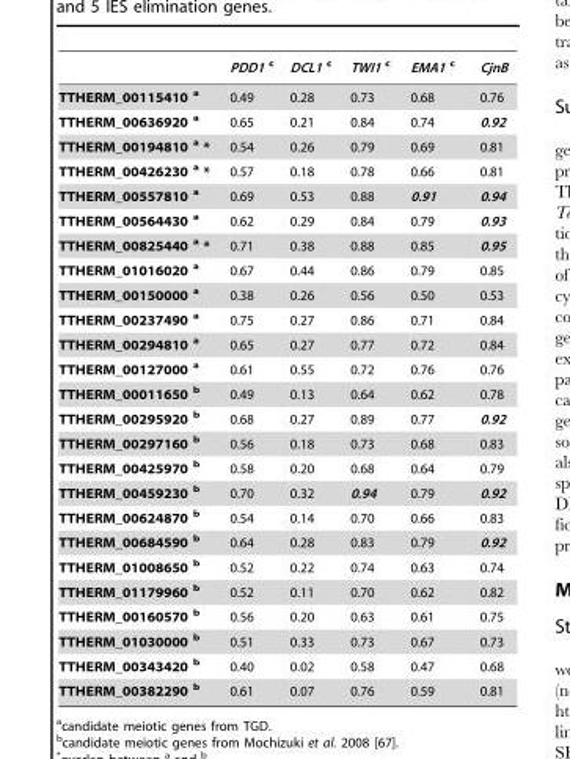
<table><thead><tr><td></td><td>PDD1 c</td><td>DCL1 c</td><td>TWI1 c</td><td>EMA1 c</td><td>CjnB</td></tr></thead><tbody><tr><td>TTHERM_00115410 a</td><td>0.49</td><td>0.28</td><td>0.73</td><td>0.68</td><td>0.76</td></tr><tr><td>TTHERM_00636920 a</td><td>0.65</td><td>0.21</td><td>0.84</td><td>0.74</td><td>0.92</td></tr><tr><td>TTHERM_00194810 a *</td><td>0.54</td><td>0.26</td><td>0.79</td><td>0.69</td><td>0.81</td></tr><tr><td>TTHERM_00426230 a *</td><td>0.57</td><td>0.18</td><td>0.78</td><td>0.66</td><td>0.81</td></tr><tr><td>TTHERM_00557810 a</td><td>0.69</td><td>0.53</td><td>0.88</td><td>0.91</td><td>0.94</td></tr><tr><td>TTHERM_00564430 a</td><td>0.62</td><td>0.29</td><td>0.84</td><td>0.79</td><td>0.93</td></tr><tr><td>TTHERM_00825440 a *</td><td>0.71</td><td>0.38</td><td>0.88</td><td>0.85</td><td>0.95</td></tr><tr><td>TTHERM_01016020 a</td><td>0.67</td><td>0.44</td><td>0.86</td><td>0.79</td><td>0.85</td></tr><tr><td>TTHERM_00150000 a</td><td>0.38</td><td>0.26</td><td>0.56</td><td>0.50</td><td>0.53</td></tr><tr><td>TTHERM_00237490 a</td><td>0.75</td><td>0.27</td><td>0.86</td><td>0.71</td><td>0.84</td></tr><tr><td>TTHERM_00294810 a</td><td>0.65</td><td>0.27</td><td>0.77</td><td>0.72</td><td>0.84</td></tr><tr><td>TTHERM_00127000 a</td><td>0.61</td><td>0.55</td><td>0.72</td><td>0.76</td><td>0.76</td></tr><tr><td>TTHERM_00011650 b</td><td>0.49</td><td>0.13</td><td>0.64</td><td>0.62</td><td>0.78</td></tr><tr><td>TTHERM_00295920 b</td><td>0.68</td><td>0.27</td><td>0.89</td><td>0.77</td><td>0.92</td></tr><tr><td>TTHERM_00297160 b</td><td>0.56</td><td>0.18</td><td>0.73</td><td>0.68</td><td>0.83</td></tr><tr><td>TTHERM_00425970 b</td><td>0.58</td><td>0.20</td><td>0.68</td><td>0.64</td><td>0.79</td></tr><tr><td>TTHERM_00459230 b</td><td>0.70</td><td>0.32</td><td>0.94</td><td>0.79</td><td>0.92</td></tr><tr><td>TTHERM_00624870 b</td><td>0.54</td><td>0.14</td><td>0.70</td><td>0.66</td><td>0.83</td></tr><tr><td>TTHERM_00684590 b</td><td>0.64</td><td>0.28</td><td>0.83</td><td>0.79</td><td>0.92</td></tr><tr><td>TTHERM_01008650 b</td><td>0.52</td><td>0.22</td><td>0.74</td><td>0.63</td><td>0.74</td></tr><tr><td>TTHERM_01179960 b</td><td>0.52</td><td>0.11</td><td>0.70</td><td>0.62</td><td>0.82</td></tr><tr><td>TTHERM_00160570 b</td><td>0.56</td><td>0.20</td><td>0.63</td><td>0.61</td><td>0.75</td></tr><tr><td>TTHERM_01030000 b</td><td>0.51</td><td>0.33</td><td>0.73</td><td>0.67</td><td>0.73</td></tr><tr><td>TTHERM_00343420 b</td><td>0.40</td><td>0.02</td><td>0.58</td><td>0.47</td><td>0.68</td></tr><tr><td>TTHERM_00382290 b</td><td>0.61</td><td>0.07</td><td>0.76</td><td>0.59</td><td>0.81</td></tr></tbody></table>